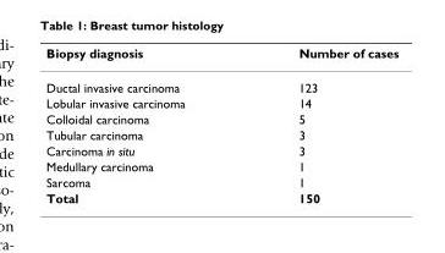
<table><thead><tr><td>Biopsy diagnosis</td><td>Number of cases</td></tr></thead><tbody><tr><td>Ductal invasive carcinoma</td><td>123</td></tr><tr><td>Lobular invasive carcinoma</td><td>14</td></tr><tr><td>Colloidal carcinoma</td><td>5</td></tr><tr><td>Tubular carcinoma</td><td>3</td></tr><tr><td>Carcinoma in situ</td><td>3</td></tr><tr><td>Medullary carcinoma</td><td>1</td></tr><tr><td>Sarcoma</td><td>1</td></tr><tr><td>Total</td><td>150</td></tr></tbody></table>